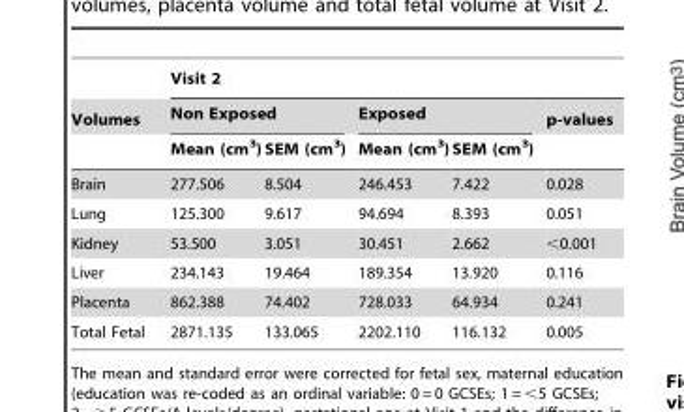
<table><thead><tr><td rowspan="3">Volumes</td><td colspan="5">Visit 2</td></tr><tr><td colspan="2">Non Exposed</td><td colspan="2">Exposed</td><td rowspan="2">p-values</td></tr><tr><td>Mean (cm<sup>3</sup>)</td><td>SEM (cm<sup>3</sup>)</td><td>Mean (cm<sup>3</sup>)</td><td>SEM (cm<sup>3</sup>)</td></tr></thead><tbody><tr><td>Brain</td><td>277.506</td><td>8.504</td><td>246.453</td><td>7.422</td><td>0.028</td></tr><tr><td>Lung</td><td>125.300</td><td>9.617</td><td>94.694</td><td>8.393</td><td>0.051</td></tr><tr><td>Kidney</td><td>53.500</td><td>3.051</td><td>30.451</td><td>2.662</td><td>&lt;0.001</td></tr><tr><td>Liver</td><td>234.143</td><td>19.464</td><td>189.354</td><td>13.920</td><td>0.116</td></tr><tr><td>Placenta</td><td>862.388</td><td>74.402</td><td>728.033</td><td>64.934</td><td>0.241</td></tr><tr><td>Total Fetal</td><td>2871.135</td><td>133.065</td><td>2202.110</td><td>116.132</td><td>0.005</td></tr></tbody></table>